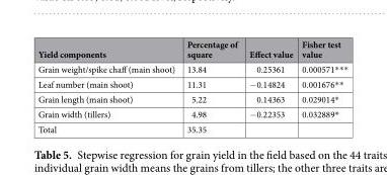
<table><thead><tr><td>Yield components</td><td>Percentage of square</td><td>Effect value</td><td>Fisher test value</td></tr></thead><tbody><tr><td>Grain weight/spike chaff (main shoot)</td><td>13.84</td><td>0.25361</td><td>0.000571***</td></tr><tr><td>Leaf number (main shoot)</td><td>11.31</td><td>−0.14824</td><td>0.001676**</td></tr><tr><td>Grain length (main shoot)</td><td>5.22</td><td>0.14363</td><td>0.029014*</td></tr><tr><td>Grain width (tillers)</td><td>4.98</td><td>−0.22353</td><td>0.032889*</td></tr><tr><td>Total</td><td>35.35</td><td></td><td></td></tr></tbody></table>